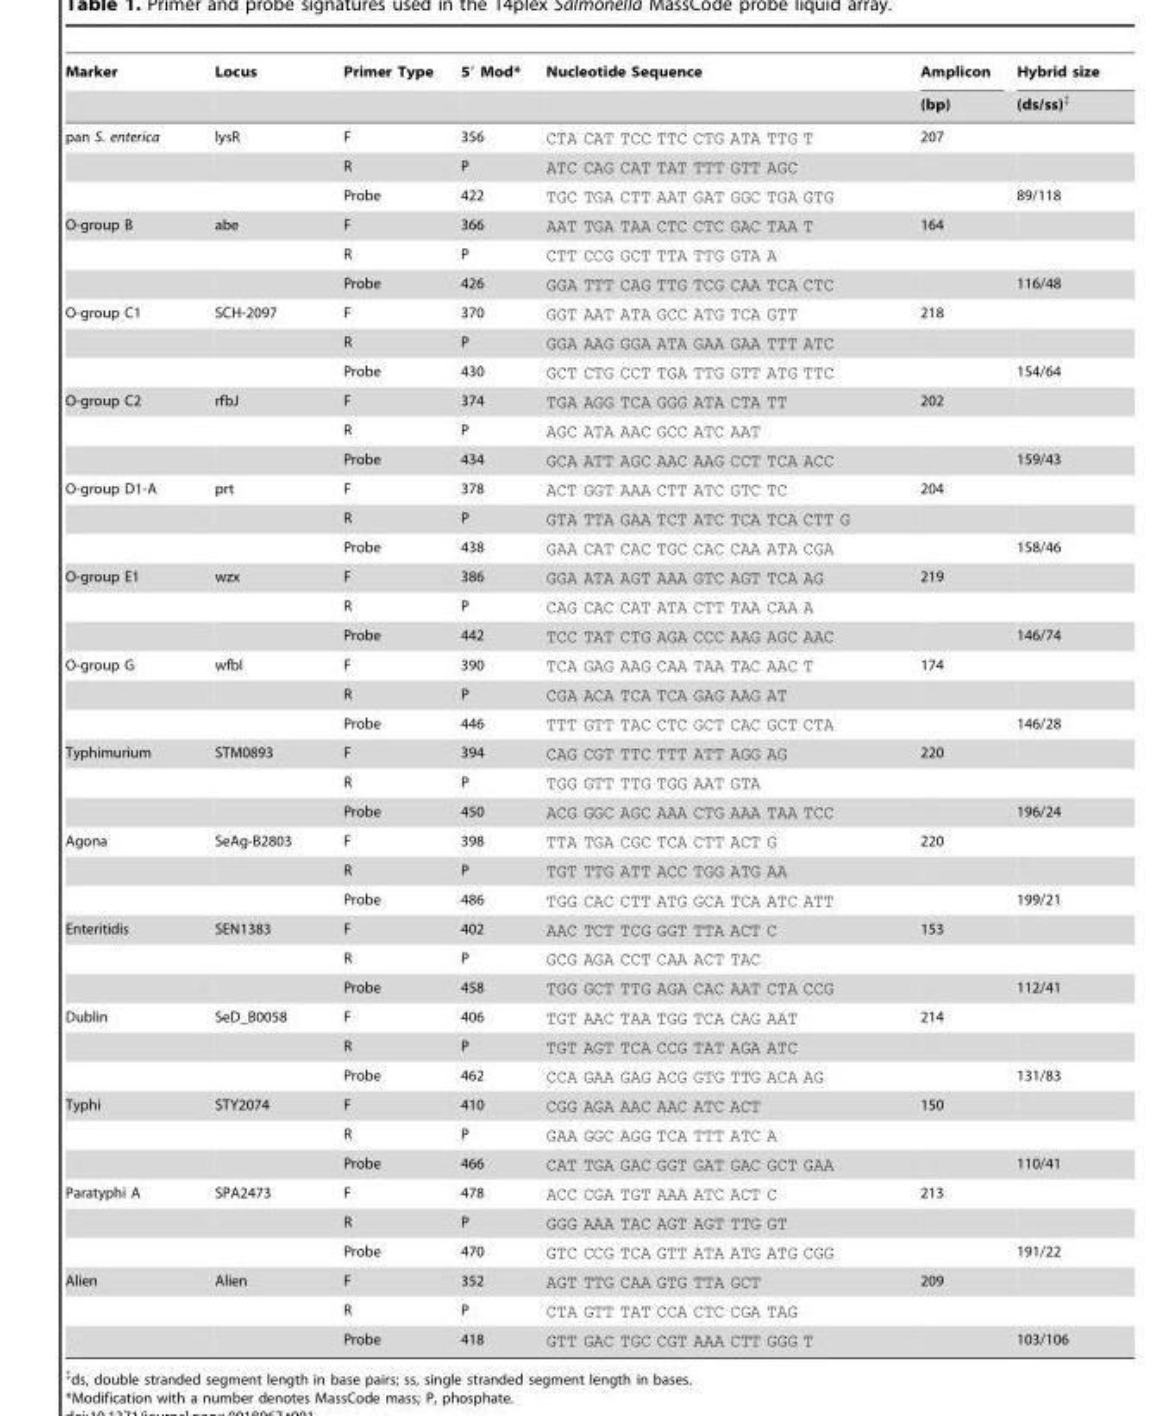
<table><thead><tr><td rowspan="2">Marker</td><td rowspan="2">Locus</td><td rowspan="2">Primer Type</td><td rowspan="2">5′ Mod*</td><td rowspan="2">Nucleotide Sequence</td><td rowspan="2">Amplicon (bp)</td><td rowspan="2">Hybrid size (ds/ss)‡</td></tr><tr></tr></thead><tbody><tr><td rowspan="3">pan S. enterica</td><td>lysR</td><td>F</td><td>356</td><td>CTA CAT TCC TTC CTG ATA TTG T</td><td>207</td><td></td></tr><tr><td></td><td>R</td><td>P</td><td>ATC CAG CAT TAT TTT GTT AGC</td><td></td><td></td></tr><tr><td></td><td>Probe</td><td>422</td><td>TGC TGA CTT AAT GAT GGC TGA GTG</td><td></td><td>89/118</td></tr><tr><td rowspan="3">O-group B</td><td>abe</td><td>F</td><td>366</td><td>AAT TGA TAA CTC CTC GAC TAA T</td><td>164</td><td></td></tr><tr><td></td><td>R</td><td>P</td><td>CTT CCG GCT TTA TTG GTA A</td><td></td><td></td></tr><tr><td></td><td>Probe</td><td>426</td><td>GGA TTT CAG TTG TCG CAA TCA CTC</td><td></td><td>116/48</td></tr><tr><td rowspan="3">O-group C1</td><td>SCH-2097</td><td>F</td><td>370</td><td>GGT AAT ATA GCC ATG TCA GTT</td><td>218</td><td></td></tr><tr><td></td><td>R</td><td>P</td><td>GGA AAG GGA ATA GAA GAA TTT ATC</td><td></td><td></td></tr><tr><td></td><td>Probe</td><td>430</td><td>GCT CTG CCT TGA TTG GTT ATG TTC</td><td></td><td>154/64</td></tr><tr><td rowspan="3">O-group C2</td><td>rfbJ</td><td>F</td><td>374</td><td>TGA AGG TCA GGG ATA CTA TT</td><td>202</td><td></td></tr><tr><td></td><td>R</td><td>P</td><td>AGC ATA AAC GCC ATC AAT</td><td></td><td></td></tr><tr><td></td><td>Probe</td><td>434</td><td>GCA ATT AGC AAC AAG CCT TCA ACC</td><td></td><td>159/43</td></tr><tr><td rowspan="3">O-group D1-A</td><td>prt</td><td>F</td><td>378</td><td>ACT GGT AAA CTT ATC GTC TC</td><td>204</td><td></td></tr><tr><td></td><td>R</td><td>P</td><td>GTA TTA GAA TCT ATC TCA TCA CTT G</td><td></td><td></td></tr><tr><td></td><td>Probe</td><td>438</td><td>GAA CAT CAC TGC CAC CAA ATA CGA</td><td></td><td>158/46</td></tr><tr><td rowspan="3">O-group E1</td><td>wzx</td><td>F</td><td>386</td><td>GGA ATA AGT AAA GTC AGT TCA AG</td><td>219</td><td></td></tr><tr><td></td><td>R</td><td>P</td><td>CAG CAC CAT ATA CTT TAA CAA A</td><td></td><td></td></tr><tr><td></td><td>Probe</td><td>442</td><td>TCC TAT CTG AGA CCC AAG AGC AAC</td><td></td><td>146/74</td></tr><tr><td rowspan="3">O-group G</td><td>wfbI</td><td>F</td><td>390</td><td>TCA GAG AAG CAA TAA TAC AAC T</td><td>174</td><td></td></tr><tr><td></td><td>R</td><td>P</td><td>CGA ACA TCA TCA GAG AAG AT</td><td></td><td></td></tr><tr><td></td><td>Probe</td><td>446</td><td>TTT GTT TAC CTC GCT CAC GCT CTA</td><td></td><td>146/28</td></tr><tr><td rowspan="3">Typhimurium</td><td>STM0893</td><td>F</td><td>394</td><td>CAG CGT TTC TTT ATT AGG AG</td><td>220</td><td></td></tr><tr><td></td><td>R</td><td>P</td><td>TGG GTT TTG TGG AAT GTA</td><td></td><td></td></tr><tr><td></td><td>Probe</td><td>450</td><td>ACG GGC AGC AAA CTG AAA TAA TCC</td><td></td><td>196/24</td></tr><tr><td rowspan="3">Agona</td><td>SeAg-B2803</td><td>F</td><td>398</td><td>TTA TGA CGC TCA CTT ACT G</td><td>220</td><td></td></tr><tr><td></td><td>R</td><td>P</td><td>TGT TTG ATT ACC TGG ATG AA</td><td></td><td></td></tr><tr><td></td><td>Probe</td><td>486</td><td>TGG CAC CTT ATG GCA TCA ATC ATT</td><td></td><td>199/21</td></tr><tr><td rowspan="3">Enteritidis</td><td>SEN1383</td><td>F</td><td>402</td><td>AAC TCT TCG GGT TTA ACT C</td><td>153</td><td></td></tr><tr><td></td><td>R</td><td>P</td><td>GCG AGA CCT CAA ACT TAC</td><td></td><td></td></tr><tr><td></td><td>Probe</td><td>458</td><td>TGG GCT TTG AGA CAC AAT CTA CCG</td><td></td><td>112/41</td></tr><tr><td rowspan="3">Dublin</td><td>SeD_B0058</td><td>F</td><td>406</td><td>TGT AAC TAA TGG TCA CAG AAT</td><td>214</td><td></td></tr><tr><td></td><td>R</td><td>P</td><td>TGT AGT TCA CCG TAT AGA ATC</td><td></td><td></td></tr><tr><td></td><td>Probe</td><td>462</td><td>CCA GAA GAG ACG GTG TTG ACA AG</td><td></td><td>131/83</td></tr><tr><td rowspan="3">Typhi</td><td>STY2074</td><td>F</td><td>410</td><td>CGG AGA AAC AAC ATC ACT</td><td>150</td><td></td></tr><tr><td></td><td>R</td><td>P</td><td>GAA GGC AGG TCA TTT ATC A</td><td></td><td></td></tr><tr><td></td><td>Probe</td><td>466</td><td>CAT TGA GAC GGT GAT GAC GCT GAA</td><td></td><td>110/41</td></tr><tr><td rowspan="3">Paratyphi A</td><td>SPA2473</td><td>F</td><td>478</td><td>ACC CGA TGT AAA ATC ACT C</td><td>213</td><td></td></tr><tr><td></td><td>R</td><td>P</td><td>GGG AAA TAC AGT AGT TTG GT</td><td></td><td></td></tr><tr><td></td><td>Probe</td><td>470</td><td>GTC CCG TCA GTT ATA ATG ATG CGG</td><td></td><td>191/22</td></tr><tr><td rowspan="3">Alien</td><td>Alien</td><td>F</td><td>352</td><td>AGT TTG CAA GTG TTA GCT</td><td>209</td><td></td></tr><tr><td></td><td>R</td><td>P</td><td>CTA GTT TAT CCA CTC CGA TAG</td><td></td><td></td></tr><tr><td></td><td>Probe</td><td>418</td><td>GTT GAC TGC CGT AAA CTT GGG T</td><td></td><td>103/106</td></tr></tbody></table>